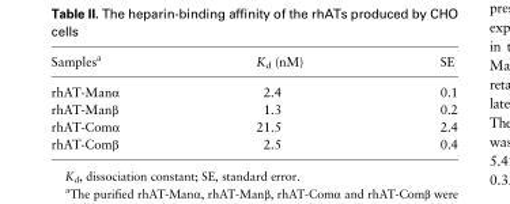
<table><thead><tr><td>Samples<sup>a</sup></td><td>K<sub>d</sub> (nM)</td><td>SE</td></tr></thead><tbody><tr><td>rhAT-Manα</td><td>2.4</td><td>0.1</td></tr><tr><td>rhAT-Manβ</td><td>1.3</td><td>0.2</td></tr><tr><td>rhAT-Comα</td><td>21.5</td><td>2.4</td></tr><tr><td>rhAT-Comβ</td><td>2.5</td><td>0.4</td></tr></tbody></table>